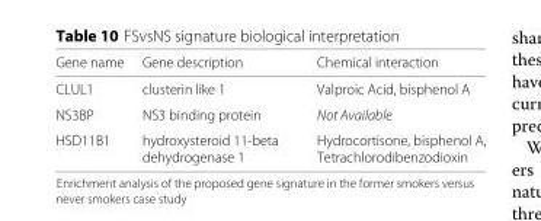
<table><thead><tr><td>Gene name</td><td>Gene description</td><td>Chemical interaction</td></tr></thead><tbody><tr><td>CLUL1</td><td>clusterin like 1</td><td>Valproic Acid, bisphenol A</td></tr><tr><td>NS3BP</td><td>NS3 binding protein</td><td>Not Available</td></tr><tr><td>HSD11B1</td><td>hydroxysteroid 11-beta dehydrogenase 1</td><td>Hydrocortisone, bisphenol A, Tetrachlorodibenzodioxin</td></tr></tbody></table>